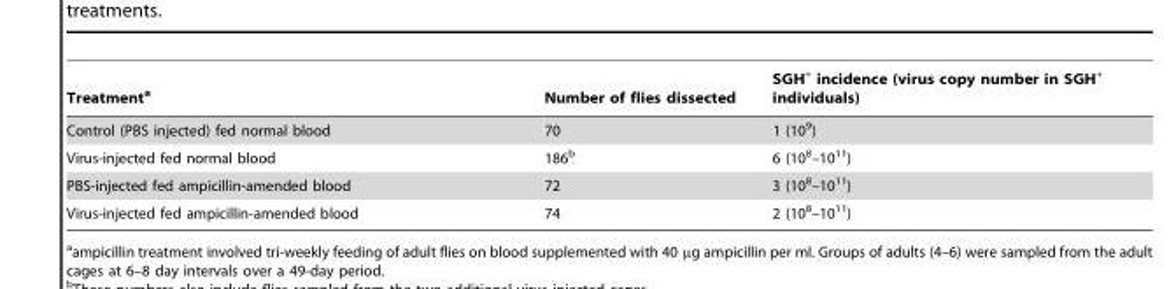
<table><thead><tr><td>Treatment<sup>a</sup></td><td>Number of flies dissected</td><td>SGH<sup>+</sup> incidence (virus copy number in SGH<sup>+</sup> individuals)</td></tr></thead><tbody><tr><td>Control (PBS injected) fed normal blood</td><td>70</td><td>1 (10<sup>9</sup>)</td></tr><tr><td>Virus-injected fed normal blood</td><td>186<sup>b</sup></td><td>6 (10<sup>8</sup>–10<sup>11</sup>)</td></tr><tr><td>PBS-injected fed ampicillin-amended blood</td><td>72</td><td>3 (10<sup>8</sup>–10<sup>11</sup>)</td></tr><tr><td>Virus-injected fed ampicillin-amended blood</td><td>74</td><td>2 (10<sup>8</sup>–10<sup>11</sup>)</td></tr></tbody></table>